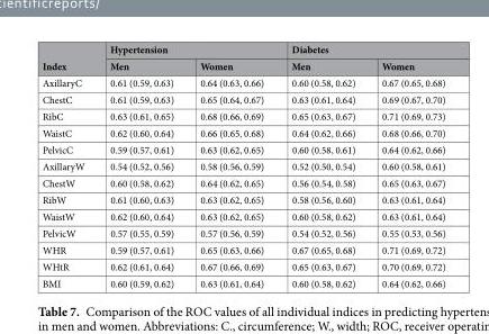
<table><thead><tr><td rowspan="2">Index</td><td colspan="2">Hypertension</td><td colspan="2">Diabetes</td></tr><tr><td>Men</td><td>Women</td><td>Men</td><td>Women</td></tr></thead><tbody><tr><td>AxillaryC</td><td>0.61 (0.59, 0.63)</td><td>0.64 (0.63, 0.66)</td><td>0.60 (0.58, 0.62)</td><td>0.67 (0.65, 0.68)</td></tr><tr><td>ChestC</td><td>0.61 (0.59, 0.63)</td><td>0.65 (0.64, 0.67)</td><td>0.63 (0.61, 0.64)</td><td>0.69 (0.67, 0.70)</td></tr><tr><td>RibC</td><td>0.63 (0.61, 0.65)</td><td>0.68 (0.66, 0.69)</td><td>0.65 (0.63, 0.67)</td><td>0.71 (0.69, 0.73)</td></tr><tr><td>WaistC</td><td>0.62 (0.60, 0.64)</td><td>0.66 (0.65, 0.68)</td><td>0.64 (0.62, 0.66)</td><td>0.68 (0.66, 0.70)</td></tr><tr><td>PelvicC</td><td>0.59 (0.57, 0.61)</td><td>0.63 (0.62, 0.65)</td><td>0.60 (0.58, 0.61)</td><td>0.64 (0.62, 0.66)</td></tr><tr><td>AxillaryW</td><td>0.54 (0.52, 0.56)</td><td>0.58 (0.56, 0.59)</td><td>0.52 (0.50, 0.54)</td><td>0.60 (0.58, 0.61)</td></tr><tr><td>ChestW</td><td>0.60 (0.58, 0.62)</td><td>0.64 (0.62, 0.65)</td><td>0.56 (0.54, 0.58)</td><td>0.65 (0.63, 0.67)</td></tr><tr><td>RibW</td><td>0.61 (0.60, 0.63)</td><td>0.63 (0.62, 0.65)</td><td>0.58 (0.56, 0.60)</td><td>0.63 (0.61, 0.64)</td></tr><tr><td>WaistW</td><td>0.62 (0.60, 0.64)</td><td>0.63 (0.62, 0.65)</td><td>0.60 (0.58, 0.62)</td><td>0.63 (0.61, 0.64)</td></tr><tr><td>PelvicW</td><td>0.57 (0.55, 0.59)</td><td>0.57 (0.56, 0.59)</td><td>0.54 (0.52, 0.56)</td><td>0.55 (0.53, 0.56)</td></tr><tr><td>WHR</td><td>0.59 (0.57, 0.61)</td><td>0.65 (0.63, 0.66)</td><td>0.67 (0.65, 0.68)</td><td>0.71 (0.69, 0.72)</td></tr><tr><td>WHtR</td><td>0.62 (0.61, 0.64)</td><td>0.67 (0.66, 0.69)</td><td>0.65 (0.63, 0.67)</td><td>0.70 (0.69, 0.72)</td></tr><tr><td>BMI</td><td>0.60 (0.59, 0.62)</td><td>0.63 (0.61, 0.64)</td><td>0.60 (0.58, 0.62)</td><td>0.64 (0.62, 0.66)</td></tr></tbody></table>